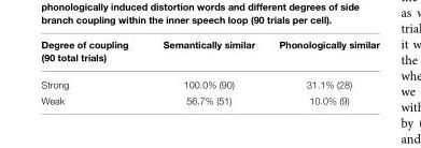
<table><thead><tr><td>Degree of coupling (90 total trials)</td><td>Semantically similar</td><td>Phonologically similar</td></tr></thead><tbody><tr><td>Strong</td><td>100.0% (90)</td><td>31.1% (28)</td></tr><tr><td>Weak</td><td>56.7% (51)</td><td>10.0% (9)</td></tr></tbody></table>